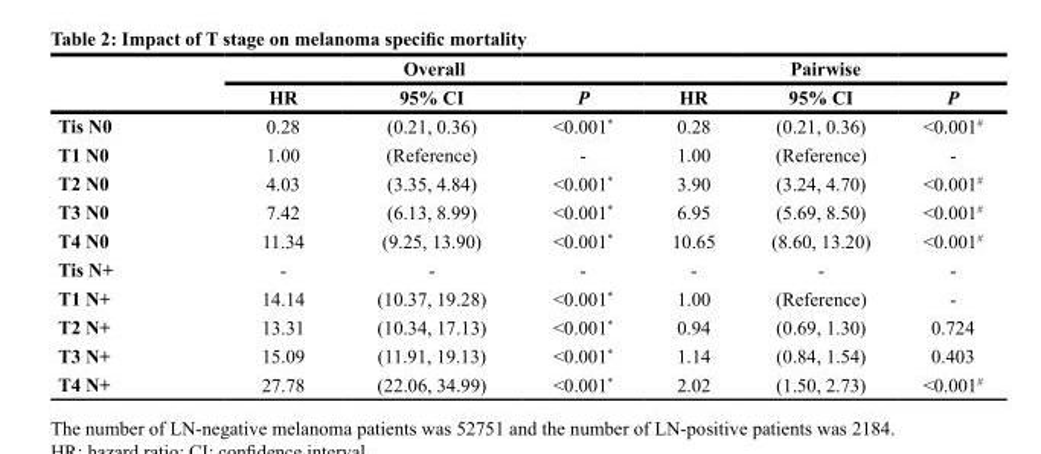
<table><thead><tr><td rowspan="2"></td><td colspan="3">Overall</td><td colspan="3">Pairwise</td></tr><tr><td>HR</td><td>95% CI</td><td>P</td><td>HR</td><td>95% CI</td><td>P</td></tr></thead><tbody><tr><td>Tis N0</td><td>0.28</td><td>(0.21, 0.36)</td><td>&lt;0.001*</td><td>0.28</td><td>(0.21, 0.36)</td><td>&lt;0.001<sup>#</sup></td></tr><tr><td>T1 N0</td><td>1.00</td><td>(Reference)</td><td>-</td><td>1.00</td><td>(Reference)</td><td>-</td></tr><tr><td>T2 N0</td><td>4.03</td><td>(3.35, 4.84)</td><td>&lt;0.001*</td><td>3.90</td><td>(3.24, 4.70)</td><td>&lt;0.001<sup>#</sup></td></tr><tr><td>T3 N0</td><td>7.42</td><td>(6.13, 8.99)</td><td>&lt;0.001*</td><td>6.95</td><td>(5.69, 8.50)</td><td>&lt;0.001<sup>#</sup></td></tr><tr><td>T4 N0</td><td>11.34</td><td>(9.25, 13.90)</td><td>&lt;0.001*</td><td>10.65</td><td>(8.60, 13.20)</td><td>&lt;0.001<sup>#</sup></td></tr><tr><td>Tis N+</td><td>-</td><td>-</td><td>-</td><td>-</td><td>-</td><td>-</td></tr><tr><td>T1 N+</td><td>14.14</td><td>(10.37, 19.28)</td><td>&lt;0.001*</td><td>1.00</td><td>(Reference)</td><td>-</td></tr><tr><td>T2 N+</td><td>13.31</td><td>(10.34, 17.13)</td><td>&lt;0.001*</td><td>0.94</td><td>(0.69, 1.30)</td><td>0.724</td></tr><tr><td>T3 N+</td><td>15.09</td><td>(11.91, 19.13)</td><td>&lt;0.001*</td><td>1.14</td><td>(0.84, 1.54)</td><td>0.403</td></tr><tr><td>T4 N+</td><td>27.78</td><td>(22.06, 34.99)</td><td>&lt;0.001*</td><td>2.02</td><td>(1.50, 2.73)</td><td>&lt;0.001<sup>#</sup></td></tr></tbody></table>